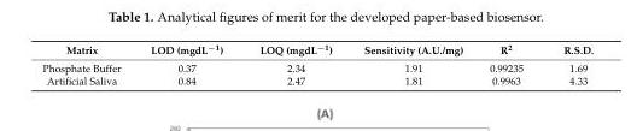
<table><thead><tr><td>Matrix</td><td>LOD (mgdL<sup>−1</sup>)</td><td>LOQ (mgdL<sup>−1</sup>)</td><td>Sensitivity (A.U./mg)</td><td>R<sup>2</sup></td><td>R.S.D.</td></tr></thead><tbody><tr><td>Phosphate Buffer</td><td>0.37</td><td>2.34</td><td>1.91</td><td>0.99235</td><td>1.69</td></tr><tr><td>Artificial Saliva</td><td>0.84</td><td>2.47</td><td>1.81</td><td>0.9963</td><td>4.33</td></tr></tbody></table>